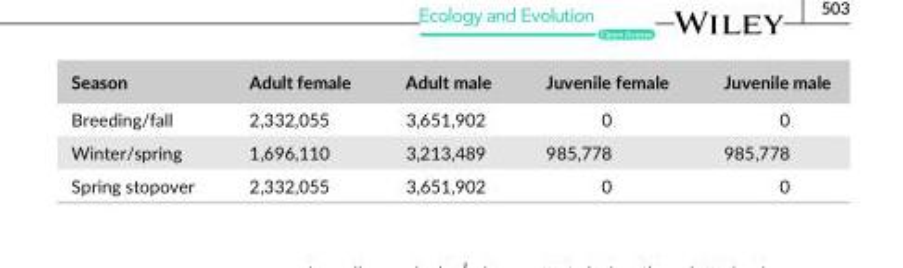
<table><thead><tr><td>Season</td><td>Adult female</td><td>Adult male</td><td>Juvenile female</td><td>Juvenile male</td></tr></thead><tbody><tr><td>Breeding/fall</td><td>2,332,055</td><td>3,651,902</td><td>0</td><td>0</td></tr><tr><td>Winter/spring</td><td>1,696,110</td><td>3,213,489</td><td>985,778</td><td>985,778</td></tr><tr><td>Spring stopover</td><td>2,332,055</td><td>3,651,902</td><td>0</td><td>0</td></tr></tbody></table>